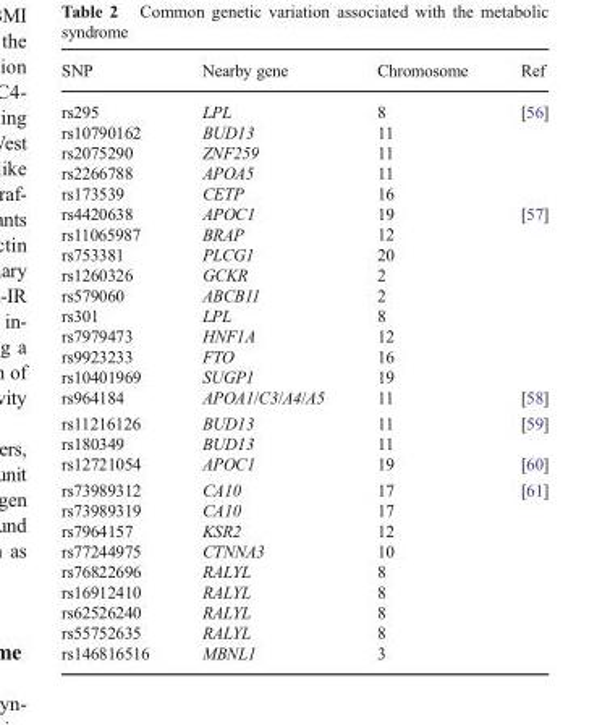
<table><thead><tr><td>SNP</td><td>Nearby gene</td><td>Chromosome</td><td>Ref</td></tr></thead><tbody><tr><td>rs295 rs10790162 rs2075290 rs2266788 rs173539</td><td>LPL BUD13 ZNF259 APOA5 CETP</td><td>8 11 11 11 16</td><td>[56]</td></tr><tr><td>rs4420638 rs11065987 rs753381 rs1260326 rs579060 rs301 rs7979473 rs9923233 rs10401969</td><td>APOC1 BRAP PLCG1 GCKR ABCB11 LPL HNF1A FTO SUGP1</td><td>19 12 20 2 2 8 12 16 19</td><td>[57]</td></tr><tr><td>rs964184</td><td>APOA1/C3/A4/A5</td><td>11</td><td>[58]</td></tr><tr><td>rs11216126 rs180349</td><td>BUD13 BUD13</td><td>11 11</td><td>[59]</td></tr><tr><td>rs12721054</td><td>APOC1</td><td>19</td><td>[60]</td></tr><tr><td>rs73989312 rs73989319 rs7964157 rs77244975 rs76822696 rs16912410 rs62526240 rs55752635 rs146816516</td><td>CA10 CA10 KSR2 CTNNA3 RALYL RALYL RALYL RALYL MBNL1</td><td>17 17 12 10 8 8 8 8 3</td><td>[61]</td></tr></tbody></table>